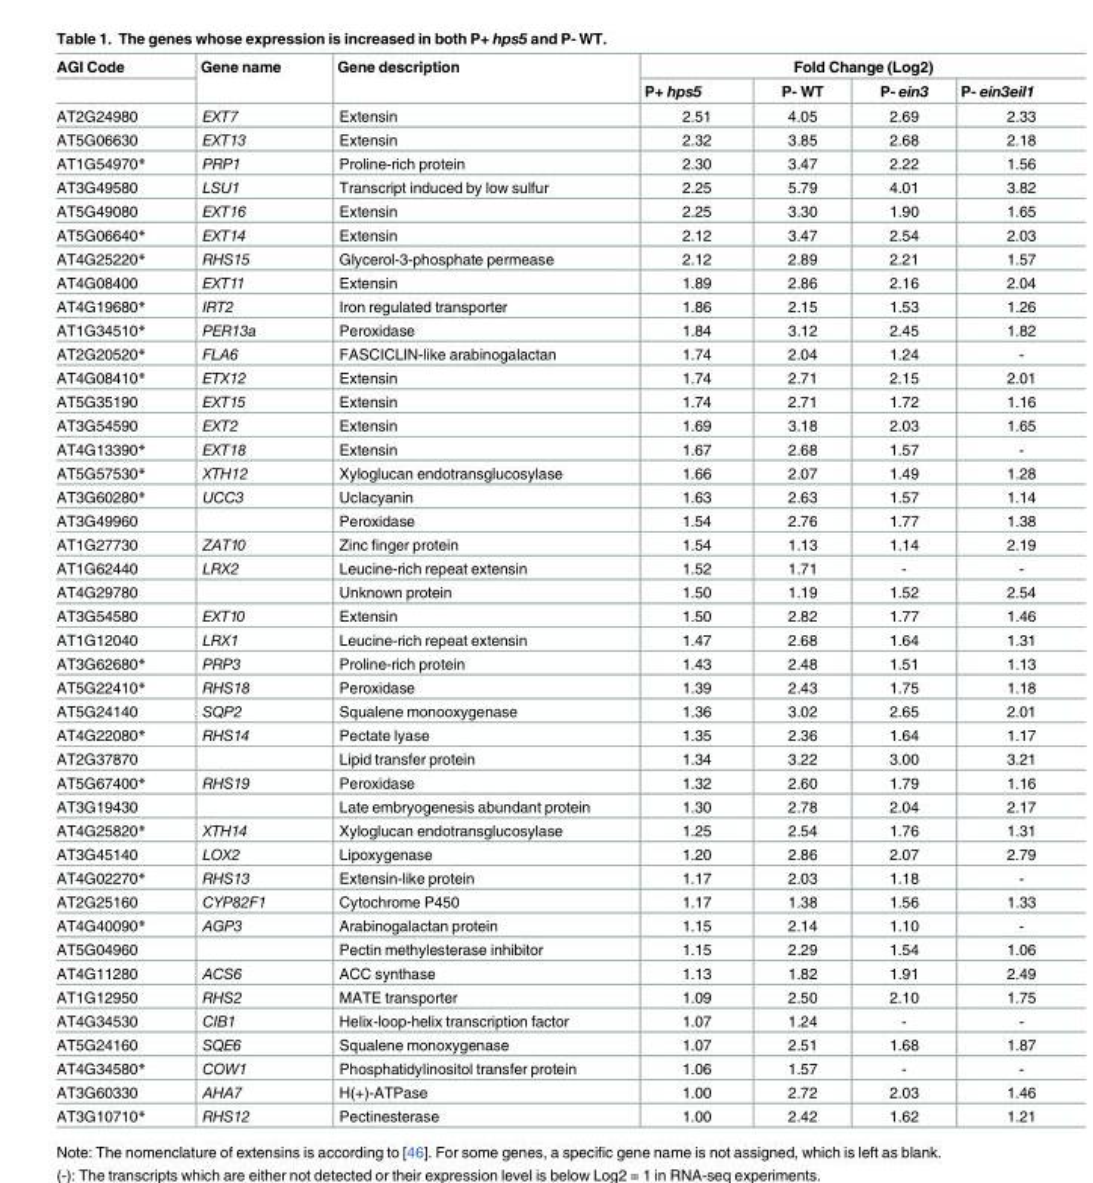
<table><thead><tr><td rowspan="2">AGI Code</td><td rowspan="2">Gene name</td><td rowspan="2">Gene description</td><td colspan="4">Fold Change (Log2)</td></tr><tr><td>P+ hps5</td><td>P- WT</td><td>P- ein3</td><td>P- ein3eil1</td></tr></thead><tbody><tr><td>AT2G24980</td><td>EXT7</td><td>Extensin</td><td>2.51</td><td>4.05</td><td>2.69</td><td>2.33</td></tr><tr><td>AT5G06630</td><td>EXT13</td><td>Extensin</td><td>2.32</td><td>3.85</td><td>2.68</td><td>2.18</td></tr><tr><td>AT1G54970*</td><td>PRP1</td><td>Proline-rich protein</td><td>2.30</td><td>3.47</td><td>2.22</td><td>1.56</td></tr><tr><td>AT3G49580</td><td>LSU1</td><td>Transcript induced by low sulfur</td><td>2.25</td><td>5.79</td><td>4.01</td><td>3.82</td></tr><tr><td>AT5G49080</td><td>EXT16</td><td>Extensin</td><td>2.25</td><td>3.30</td><td>1.90</td><td>1.65</td></tr><tr><td>AT5G06640*</td><td>EXT14</td><td>Extensin</td><td>2.12</td><td>3.47</td><td>2.54</td><td>2.03</td></tr><tr><td>AT4G25220*</td><td>RHS15</td><td>Glycerol-3-phosphate permease</td><td>2.12</td><td>2.89</td><td>2.21</td><td>1.57</td></tr><tr><td>AT4G08400</td><td>EXT11</td><td>Extensin</td><td>1.89</td><td>2.86</td><td>2.16</td><td>2.04</td></tr><tr><td>AT4G19680*</td><td>IRT2</td><td>Iron regulated transporter</td><td>1.86</td><td>2.15</td><td>1.53</td><td>1.26</td></tr><tr><td>AT1G34510*</td><td>PER13a</td><td>Peroxidase</td><td>1.84</td><td>3.12</td><td>2.45</td><td>1.82</td></tr><tr><td>AT2G20520*</td><td>FLA6</td><td>FASCICLIN-like arabinogalactan</td><td>1.74</td><td>2.04</td><td>1.24</td><td>-</td></tr><tr><td>AT4G08410*</td><td>ETX12</td><td>Extensin</td><td>1.74</td><td>2.71</td><td>2.15</td><td>2.01</td></tr><tr><td>AT5G35190</td><td>EXT15</td><td>Extensin</td><td>1.74</td><td>2.71</td><td>1.72</td><td>1.16</td></tr><tr><td>AT3G54590</td><td>EXT2</td><td>Extensin</td><td>1.69</td><td>3.18</td><td>2.03</td><td>1.65</td></tr><tr><td>AT4G13390*</td><td>EXT18</td><td>Extensin</td><td>1.67</td><td>2.68</td><td>1.57</td><td>-</td></tr><tr><td>AT5G57530*</td><td>XTH12</td><td>Xyloglucan endotransglucosylase</td><td>1.66</td><td>2.07</td><td>1.49</td><td>1.28</td></tr><tr><td>AT3G60280*</td><td>UCC3</td><td>Uclacyanin</td><td>1.63</td><td>2.63</td><td>1.57</td><td>1.14</td></tr><tr><td>AT3G49960</td><td></td><td>Peroxidase</td><td>1.54</td><td>2.76</td><td>1.77</td><td>1.38</td></tr><tr><td>AT1G27730</td><td>ZAT10</td><td>Zinc finger protein</td><td>1.54</td><td>1.13</td><td>1.14</td><td>2.19</td></tr><tr><td>AT1G62440</td><td>LRX2</td><td>Leucine-rich repeat extensin</td><td>1.52</td><td>1.71</td><td>-</td><td>-</td></tr><tr><td>AT4G29780</td><td></td><td>Unknown protein</td><td>1.50</td><td>1.19</td><td>1.52</td><td>2.54</td></tr><tr><td>AT3G54580</td><td>EXT10</td><td>Extensin</td><td>1.50</td><td>2.82</td><td>1.77</td><td>1.46</td></tr><tr><td>AT1G12040</td><td>LRX1</td><td>Leucine-rich repeat extensin</td><td>1.47</td><td>2.68</td><td>1.64</td><td>1.31</td></tr><tr><td>AT3G62680*</td><td>PRP3</td><td>Proline-rich protein</td><td>1.43</td><td>2.48</td><td>1.51</td><td>1.13</td></tr><tr><td>AT5G22410*</td><td>RHS18</td><td>Peroxidase</td><td>1.39</td><td>2.43</td><td>1.75</td><td>1.18</td></tr><tr><td>AT5G24140</td><td>SQP2</td><td>Squalene monooxygenase</td><td>1.36</td><td>3.02</td><td>2.65</td><td>2.01</td></tr><tr><td>AT4G22080*</td><td>RHS14</td><td>Pectate lyase</td><td>1.35</td><td>2.36</td><td>1.64</td><td>1.17</td></tr><tr><td>AT2G37870</td><td></td><td>Lipid transfer protein</td><td>1.34</td><td>3.22</td><td>3.00</td><td>3.21</td></tr><tr><td>AT5G67400*</td><td>RHS19</td><td>Peroxidase</td><td>1.32</td><td>2.60</td><td>1.79</td><td>1.16</td></tr><tr><td>AT3G19430</td><td></td><td>Late embryogenesis abundant protein</td><td>1.30</td><td>2.78</td><td>2.04</td><td>2.17</td></tr><tr><td>AT4G25820*</td><td>XTH14</td><td>Xyloglucan endotransglucosylase</td><td>1.25</td><td>2.54</td><td>1.76</td><td>1.31</td></tr><tr><td>AT3G45140</td><td>LOX2</td><td>Lipoxygenase</td><td>1.20</td><td>2.86</td><td>2.07</td><td>2.79</td></tr><tr><td>AT4G02270*</td><td>RHS13</td><td>Extensin-like protein</td><td>1.17</td><td>2.03</td><td>1.18</td><td>-</td></tr><tr><td>AT2G25160</td><td>CYP82F1</td><td>Cytochrome P450</td><td>1.17</td><td>1.38</td><td>1.56</td><td>1.33</td></tr><tr><td>AT4G40090*</td><td>AGP3</td><td>Arabinogalactan protein</td><td>1.15</td><td>2.14</td><td>1.10</td><td>-</td></tr><tr><td>AT5G04960</td><td></td><td>Pectin methylesterase inhibitor</td><td>1.15</td><td>2.29</td><td>1.54</td><td>1.06</td></tr><tr><td>AT4G11280</td><td>ACS6</td><td>ACC synthase</td><td>1.13</td><td>1.82</td><td>1.91</td><td>2.49</td></tr><tr><td>AT1G12950</td><td>RHS2</td><td>MATE transporter</td><td>1.09</td><td>2.50</td><td>2.10</td><td>1.75</td></tr><tr><td>AT4G34530</td><td>CIB1</td><td>Helix-loop-helix transcription factor</td><td>1.07</td><td>1.24</td><td>-</td><td>-</td></tr><tr><td>AT5G24160</td><td>SQE6</td><td>Squalene monoxygenase</td><td>1.07</td><td>2.51</td><td>1.68</td><td>1.87</td></tr><tr><td>AT4G34580*</td><td>COW1</td><td>Phosphatidylinositol transfer protein</td><td>1.06</td><td>1.57</td><td>-</td><td>-</td></tr><tr><td>AT3G60330</td><td>AHA7</td><td>H(+)-ATPase</td><td>1.00</td><td>2.72</td><td>2.03</td><td>1.46</td></tr><tr><td>AT3G10710*</td><td>RHS12</td><td>Pectinesterase</td><td>1.00</td><td>2.42</td><td>1.62</td><td>1.21</td></tr></tbody></table>